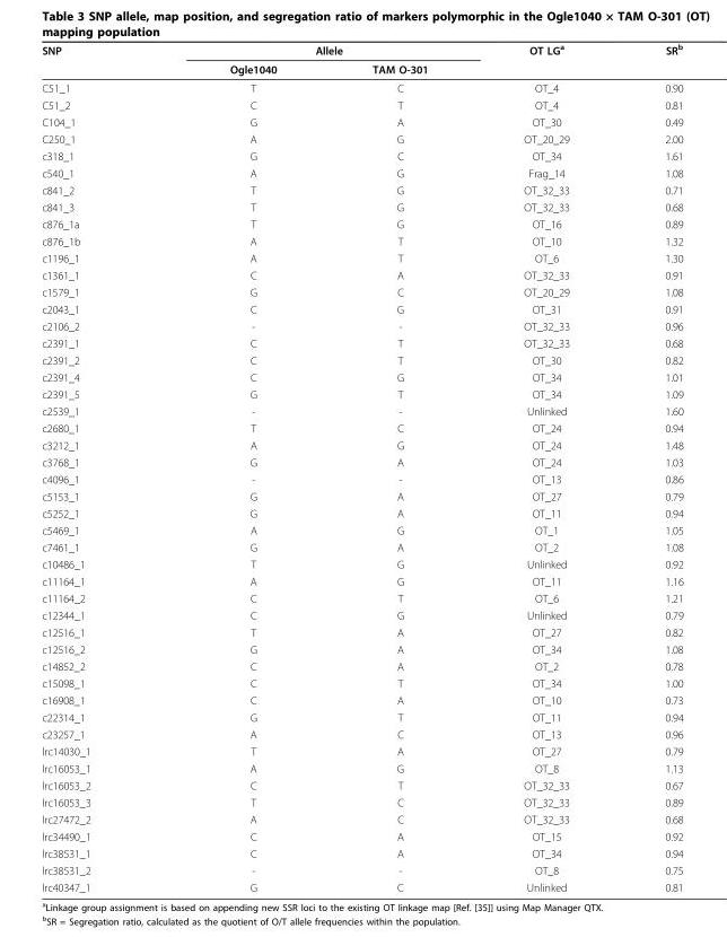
<table><thead><tr><td rowspan="2">SNP</td><td colspan="2">Allele</td><td rowspan="2">OT LG<sup>a</sup></td><td rowspan="2">SR<sup>b</sup></td></tr><tr><td>Ogle1040</td><td>TAM O-301</td></tr></thead><tbody><tr><td>C51_1</td><td>T</td><td>C</td><td>OT_4</td><td>0.90</td></tr><tr><td>C51_2</td><td>C</td><td>T</td><td>OT_4</td><td>0.81</td></tr><tr><td>C104_1</td><td>G</td><td>A</td><td>OT_30</td><td>0.49</td></tr><tr><td>C250_1</td><td>A</td><td>G</td><td>OT_20_29</td><td>2.00</td></tr><tr><td>c318_1</td><td>G</td><td>C</td><td>OT_34</td><td>1.61</td></tr><tr><td>c540_1</td><td>A</td><td>G</td><td>Frag_14</td><td>1.08</td></tr><tr><td>c841_2</td><td>T</td><td>G</td><td>OT_32_33</td><td>0.71</td></tr><tr><td>c841_3</td><td>T</td><td>G</td><td>OT_32_33</td><td>0.68</td></tr><tr><td>c876_1a</td><td>T</td><td>G</td><td>OT_16</td><td>0.89</td></tr><tr><td>c876_1b</td><td>A</td><td>T</td><td>OT_10</td><td>1.32</td></tr><tr><td>c1196_1</td><td>A</td><td>T</td><td>OT_6</td><td>1.30</td></tr><tr><td>c1361_1</td><td>C</td><td>A</td><td>OT_32_33</td><td>0.91</td></tr><tr><td>c1579_1</td><td>G</td><td>C</td><td>OT_20_29</td><td>1.08</td></tr><tr><td>c2043_1</td><td>C</td><td>G</td><td>OT_31</td><td>0.91</td></tr><tr><td>c2106_2</td><td>-</td><td>-</td><td>OT_32_33</td><td>0.96</td></tr><tr><td>c2391_1</td><td>C</td><td>T</td><td>OT_32_33</td><td>0.68</td></tr><tr><td>c2391_2</td><td>C</td><td>T</td><td>OT_30</td><td>0.82</td></tr><tr><td>c2391_4</td><td>C</td><td>G</td><td>OT_34</td><td>1.01</td></tr><tr><td>c2391_5</td><td>G</td><td>T</td><td>OT_34</td><td>1.09</td></tr><tr><td>c2539_1</td><td>-</td><td>-</td><td>Unlinked</td><td>1.60</td></tr><tr><td>c2680_1</td><td>T</td><td>C</td><td>OT_24</td><td>0.94</td></tr><tr><td>c3212_1</td><td>A</td><td>G</td><td>OT_24</td><td>1.48</td></tr><tr><td>c3768_1</td><td>G</td><td>A</td><td>OT_24</td><td>1.03</td></tr><tr><td>c4096_1</td><td>-</td><td>-</td><td>OT_13</td><td>0.86</td></tr><tr><td>c5153_1</td><td>G</td><td>A</td><td>OT_27</td><td>0.79</td></tr><tr><td>c5252_1</td><td>G</td><td>A</td><td>OT_11</td><td>0.94</td></tr><tr><td>c5469_1</td><td>A</td><td>G</td><td>OT_1</td><td>1.05</td></tr><tr><td>c7461_1</td><td>G</td><td>A</td><td>OT_2</td><td>1.08</td></tr><tr><td>c10486_1</td><td>T</td><td>G</td><td>Unlinked</td><td>0.92</td></tr><tr><td>c11164_1</td><td>A</td><td>G</td><td>OT_11</td><td>1.16</td></tr><tr><td>c11164_2</td><td>C</td><td>T</td><td>OT_6</td><td>1.21</td></tr><tr><td>c12344_1</td><td>C</td><td>G</td><td>Unlinked</td><td>0.79</td></tr><tr><td>c12516_1</td><td>T</td><td>A</td><td>OT_27</td><td>0.82</td></tr><tr><td>c12516_2</td><td>G</td><td>A</td><td>OT_34</td><td>1.08</td></tr><tr><td>c14852_2</td><td>C</td><td>A</td><td>OT_2</td><td>0.78</td></tr><tr><td>c15098_1</td><td>C</td><td>T</td><td>OT_34</td><td>1.00</td></tr><tr><td>c16908_1</td><td>C</td><td>A</td><td>OT_10</td><td>0.73</td></tr><tr><td>c22314_1</td><td>G</td><td>T</td><td>OT_11</td><td>0.94</td></tr><tr><td>c23257_1</td><td>A</td><td>C</td><td>OT_13</td><td>0.96</td></tr><tr><td>lrc14030_1</td><td>T</td><td>A</td><td>OT_27</td><td>0.79</td></tr><tr><td>lrc16053_1</td><td>A</td><td>G</td><td>OT_8</td><td>1.13</td></tr><tr><td>lrc16053_2</td><td>C</td><td>T</td><td>OT_32_33</td><td>0.67</td></tr><tr><td>lrc16053_3</td><td>T</td><td>C</td><td>OT_32_33</td><td>0.89</td></tr><tr><td>lrc27472_2</td><td>A</td><td>C</td><td>OT_32_33</td><td>0.68</td></tr><tr><td>lrc34490_1</td><td>C</td><td>A</td><td>OT_15</td><td>0.92</td></tr><tr><td>lrc38531_1</td><td>C</td><td>A</td><td>OT_34</td><td>0.94</td></tr><tr><td>lrc38531_2</td><td>-</td><td>-</td><td>OT_8</td><td>0.75</td></tr><tr><td>lrc40347_1</td><td>G</td><td>C</td><td>Unlinked</td><td>0.81</td></tr></tbody></table>